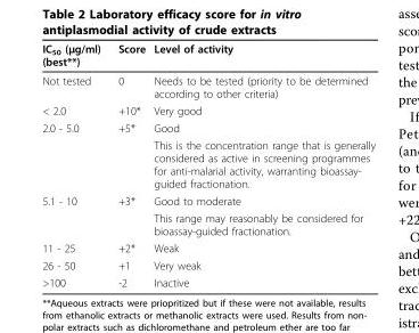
<table><thead><tr><td>IC<sub>50</sub> (μg/ml) (best**)</td><td>Score</td><td>Level of activity</td></tr></thead><tbody><tr><td>Not tested</td><td>0</td><td>Needs to be tested (priority to be determined according to other criteria)</td></tr><tr><td>&lt; 2.0</td><td>+10*</td><td>Very good</td></tr><tr><td rowspan="2">2.0 - 5.0</td><td>+5*</td><td>Good</td></tr><tr><td></td><td>This is the concentration range that is generally considered as active in screening programmes for anti-malarial activity, warranting bioassay- guided fractionation.</td></tr><tr><td rowspan="2">5.1 - 10</td><td>+3*</td><td>Good to moderate</td></tr><tr><td></td><td>This range may reasonably be considered for bioassay-guided fractionation.</td></tr><tr><td>11 - 25</td><td>+2*</td><td>Weak</td></tr><tr><td>26 - 50</td><td>+1</td><td>Very weak</td></tr><tr><td>&gt;100</td><td>-2</td><td>Inactive</td></tr></tbody></table>